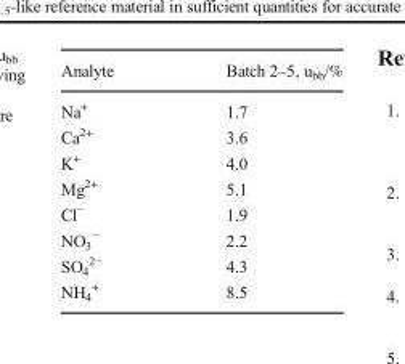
<table><thead><tr><td>Analyte</td><td>Batch 2–5, u<sub>bb</sub>/%</td></tr></thead><tbody><tr><td>Na<sup>+</sup></td><td>1.7</td></tr><tr><td>Ca<sup>2+</sup></td><td>3.6</td></tr><tr><td>K<sup>+</sup></td><td>4.0</td></tr><tr><td>Mg<sup>2+</sup></td><td>5.1</td></tr><tr><td>Cl<sup>−</sup></td><td>1.9</td></tr><tr><td>NO<sub>3</sub> <sup>−</sup></td><td>2.2</td></tr><tr><td>SO<sub>4</sub> <sup>2−</sup></td><td>4.3</td></tr><tr><td>NH<sub>4</sub> <sup>+</sup></td><td>8.5</td></tr></tbody></table>